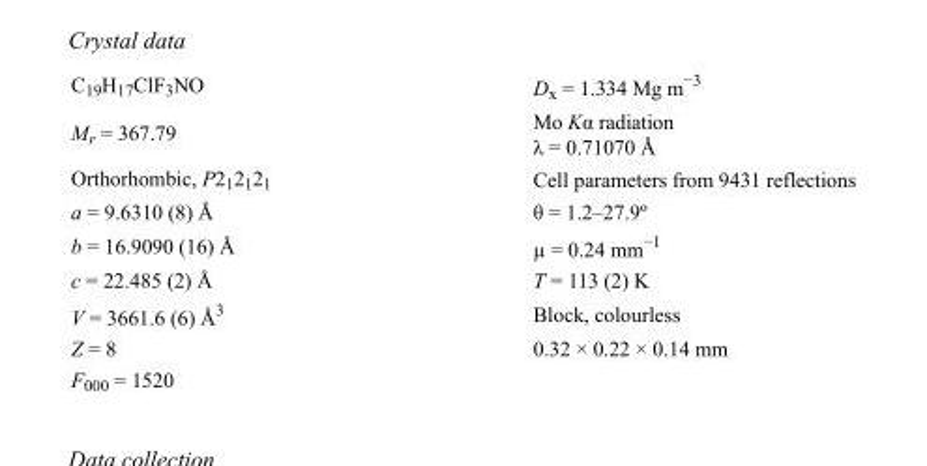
<table><tbody><tr><td>C<sub>19</sub>H<sub>17</sub>ClF<sub>3</sub>NO</td><td>D<sub>x</sub> = 1.334 Mg m<sup>−3</sup></td></tr><tr><td>M<sub>r</sub> = 367.79</td><td>Mo Kα radiation λ = 0.71070 Å</td></tr><tr><td>Orthorhombic, P2<sub>1</sub>2<sub>1</sub>2<sub>1</sub></td><td>Cell parameters from 9431 reflections</td></tr><tr><td>a = 9.6310 (8) Å</td><td>θ = 1.2–27.9º</td></tr><tr><td>b = 16.9090 (16) Å</td><td>µ = 0.24 mm<sup>−1</sup></td></tr><tr><td>c = 22.485 (2) Å</td><td>T = 113 (2) K</td></tr><tr><td>V = 3661.6 (6) Å<sup>3</sup></td><td>Block, colourless</td></tr><tr><td>Z = 8</td><td>0.32 × 0.22 × 0.14 mm</td></tr><tr><td>F000 = 1520</td><td></td></tr></tbody></table>